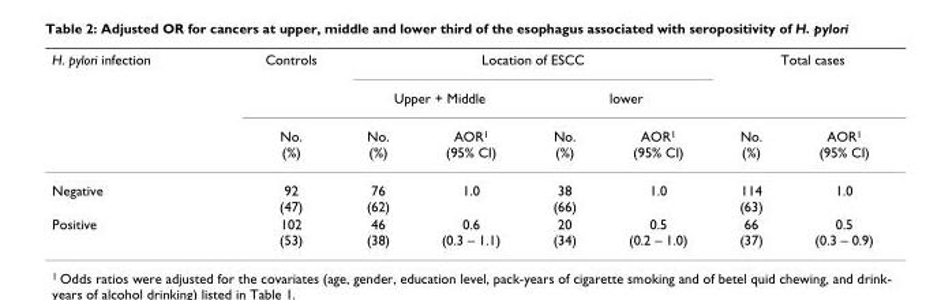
<table><thead><tr><td rowspan="3">H. pylori infection</td><td rowspan="3">Controls No. (%)</td><td colspan="4">Location of ESCC</td><td colspan="2">Total cases</td></tr><tr><td colspan="2">Upper + Middle</td><td colspan="2">lower</td><td rowspan="2">No. (%)</td><td rowspan="2">AOR<sup>1</sup> (95% CI)</td></tr><tr><td>No. (%)</td><td>AOR<sup>1</sup> (95% CI)</td><td>No. (%)</td><td>AOR<sup>1</sup> (95% CI)</td></tr></thead><tbody><tr><td>Negative</td><td>92 (47)</td><td>76 (62)</td><td>1.0</td><td>38 (66)</td><td>1.0</td><td>114 (63)</td><td>1.0</td></tr><tr><td>Positive</td><td>102 (53)</td><td>46 (38)</td><td>0.6 (0.3 – 1.1)</td><td>20 (34)</td><td>0.5 (0.2 – 1.0)</td><td>66 (37)</td><td>0.5 (0.3 – 0.9)</td></tr></tbody></table>